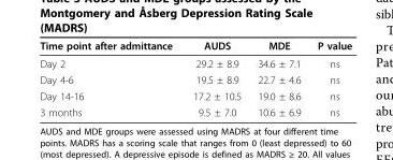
<table><thead><tr><td>Time point after admittance</td><td>AUDS</td><td>MDE</td><td>P value</td></tr></thead><tbody><tr><td>Day 2</td><td>29.2 ± 8.9</td><td>34.6 ± 7.1</td><td>ns</td></tr><tr><td>Day 4-6</td><td>19.5 ± 8.9</td><td>22.7 ± 4.6</td><td>ns</td></tr><tr><td>Day 14-16</td><td>17.2 ± 10.5</td><td>19.0 ± 8.6</td><td>ns</td></tr><tr><td>3 months</td><td>9.5 ± 7.0</td><td>10.6 ± 6.9</td><td>ns</td></tr></tbody></table>